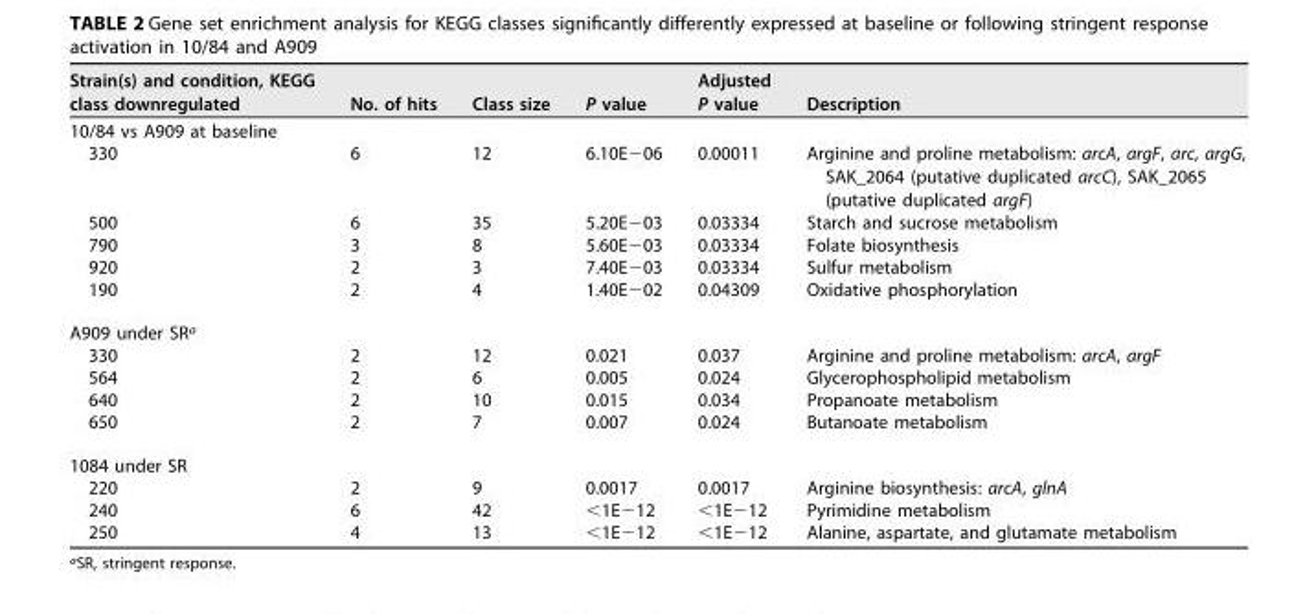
<table><thead><tr><td>Strain(s) and condition, KEGG class downregulated</td><td>No. of hits</td><td>Class size</td><td>P value</td><td>Adjusted P value</td><td>Description</td></tr></thead><tbody><tr><td colspan="6">10/84 vs A909 at baseline</td></tr><tr><td>330</td><td>6</td><td>12</td><td>6.10E−06</td><td>0.00011</td><td>Arginine and proline metabolism: arcA, argF, arc, argG, SAK_2064 (putative duplicated arcC), SAK_2065 (putative duplicated argF)</td></tr><tr><td>500</td><td>6</td><td>35</td><td>5.20E−03</td><td>0.03334</td><td>Starch and sucrose metabolism</td></tr><tr><td>790</td><td>3</td><td>8</td><td>5.60E−03</td><td>0.03334</td><td>Folate biosynthesis</td></tr><tr><td>920</td><td>2</td><td>3</td><td>7.40E−03</td><td>0.03334</td><td>Sulfur metabolism</td></tr><tr><td>190</td><td>2</td><td>4</td><td>1.40E−02</td><td>0.04309</td><td>Oxidative phosphorylation</td></tr><tr><td colspan="6">A909 under SR<sup>a</sup></td></tr><tr><td>330</td><td>2</td><td>12</td><td>0.021</td><td>0.037</td><td>Arginine and proline metabolism: arcA, argF</td></tr><tr><td>564</td><td>2</td><td>6</td><td>0.005</td><td>0.024</td><td>Glycerophospholipid metabolism</td></tr><tr><td>640</td><td>2</td><td>10</td><td>0.015</td><td>0.034</td><td>Propanoate metabolism</td></tr><tr><td>650</td><td>2</td><td>7</td><td>0.007</td><td>0.024</td><td>Butanoate metabolism</td></tr><tr><td colspan="6">1084 under SR</td></tr><tr><td>220</td><td>2</td><td>9</td><td>0.0017</td><td>0.0017</td><td>Arginine biosynthesis: arcA, glnA</td></tr><tr><td>240</td><td>6</td><td>42</td><td>&lt;1E−12</td><td>&lt;1E−12</td><td>Pyrimidine metabolism</td></tr><tr><td>250</td><td>4</td><td>13</td><td>&lt;1E−12</td><td>&lt;1E−12</td><td>Alanine, aspartate, and glutamate metabolism</td></tr></tbody></table>